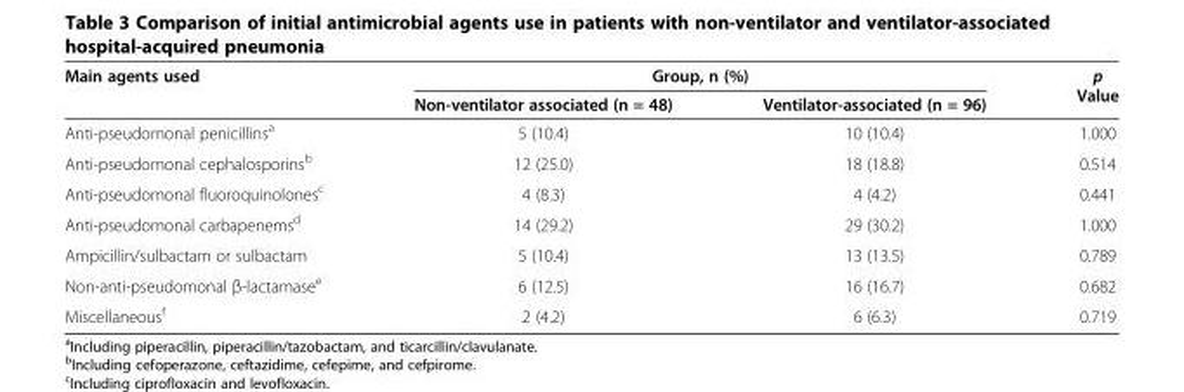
<table><thead><tr><td rowspan="2">Main agents used</td><td colspan="2">Group, n (%)</td><td rowspan="2">p Value</td></tr><tr><td>Non-ventilator associated (n = 48)</td><td>Ventilator-associated (n = 96)</td></tr></thead><tbody><tr><td>Anti-pseudomonal penicillins<sup>a</sup></td><td>5 (10.4)</td><td>10 (10.4)</td><td>1.000</td></tr><tr><td>Anti-pseudomonal cephalosporins<sup>b</sup></td><td>12 (25.0)</td><td>18 (18.8)</td><td>0.514</td></tr><tr><td>Anti-pseudomonal fluoroquinolones<sup>c</sup></td><td>4 (8.3)</td><td>4 (4.2)</td><td>0.441</td></tr><tr><td>Anti-pseudomonal carbapenems<sup>d</sup></td><td>14 (29.2)</td><td>29 (30.2)</td><td>1.000</td></tr><tr><td>Ampicillin/sulbactam or sulbactam</td><td>5 (10.4)</td><td>13 (13.5)</td><td>0.789</td></tr><tr><td>Non-anti-pseudomonal β-lactamase<sup>e</sup></td><td>6 (12.5)</td><td>16 (16.7)</td><td>0.682</td></tr><tr><td>Miscellaneous<sup>f</sup></td><td>2 (4.2)</td><td>6 (6.3)</td><td>0.719</td></tr></tbody></table>